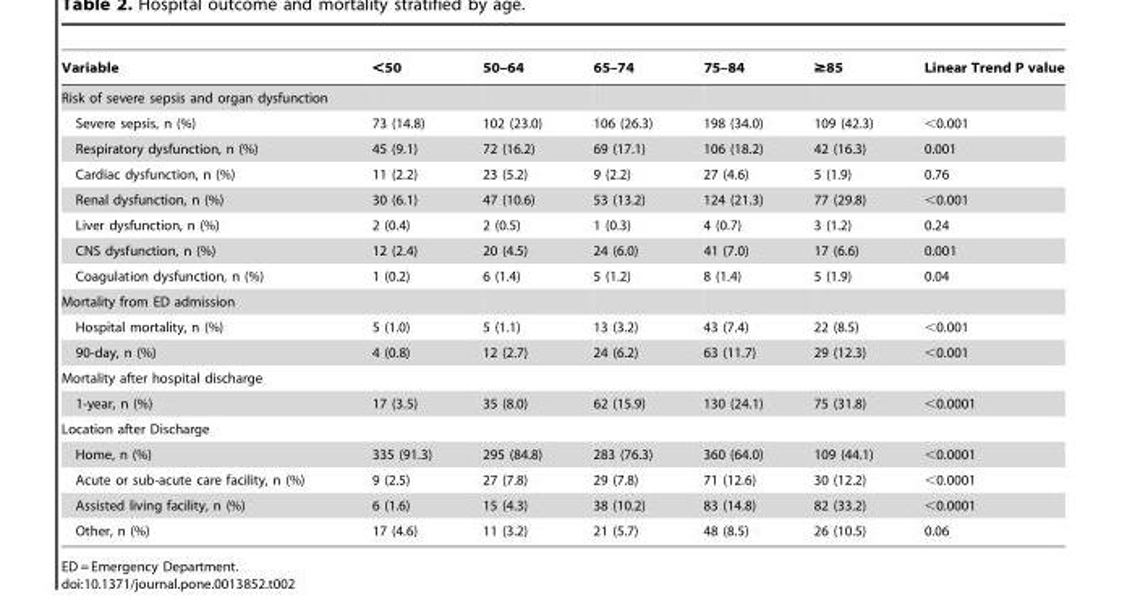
<table><thead><tr><td>Variable</td><td>&lt;50</td><td>50–64</td><td>65–74</td><td>75–84</td><td>≥85</td><td>Linear Trend P value</td></tr></thead><tbody><tr><td colspan="7">Risk of severe sepsis and organ dysfunction</td></tr><tr><td>Severe sepsis, n (%)</td><td>73 (14.8)</td><td>102 (23.0)</td><td>106 (26.3)</td><td>198 (34.0)</td><td>109 (42.3)</td><td>&lt;0.001</td></tr><tr><td>Respiratory dysfunction, n (%)</td><td>45 (9.1)</td><td>72 (16.2)</td><td>69 (17.1)</td><td>106 (18.2)</td><td>42 (16.3)</td><td>0.001</td></tr><tr><td>Cardiac dysfunction, n (%)</td><td>11 (2.2)</td><td>23 (5.2)</td><td>9 (2.2)</td><td>27 (4.6)</td><td>5 (1.9)</td><td>0.76</td></tr><tr><td>Renal dysfunction, n (%)</td><td>30 (6.1)</td><td>47 (10.6)</td><td>53 (13.2)</td><td>124 (21.3)</td><td>77 (29.8)</td><td>&lt;0.001</td></tr><tr><td>Liver dysfunction, n (%)</td><td>2 (0.4)</td><td>2 (0.5)</td><td>1 (0.3)</td><td>4 (0.7)</td><td>3 (1.2)</td><td>0.24</td></tr><tr><td>CNS dysfunction, n (%)</td><td>12 (2.4)</td><td>20 (4.5)</td><td>24 (6.0)</td><td>41 (7.0)</td><td>17 (6.6)</td><td>0.001</td></tr><tr><td>Coagulation dysfunction, n (%)</td><td>1 (0.2)</td><td>6 (1.4)</td><td>5 (1.2)</td><td>8 (1.4)</td><td>5 (1.9)</td><td>0.04</td></tr><tr><td colspan="7">Mortality from ED admission</td></tr><tr><td>Hospital mortality, n (%)</td><td>5 (1.0)</td><td>5 (1.1)</td><td>13 (3.2)</td><td>43 (7.4)</td><td>22 (8.5)</td><td>&lt;0.001</td></tr><tr><td>90-day, n (%)</td><td>4 (0.8)</td><td>12 (2.7)</td><td>24 (6.2)</td><td>63 (11.7)</td><td>29 (12.3)</td><td>&lt;0.001</td></tr><tr><td colspan="7">Mortality after hospital discharge</td></tr><tr><td>1-year, n (%)</td><td>17 (3.5)</td><td>35 (8.0)</td><td>62 (15.9)</td><td>130 (24.1)</td><td>75 (31.8)</td><td>&lt;0.0001</td></tr><tr><td colspan="7">Location after Discharge</td></tr><tr><td>Home, n (%)</td><td>335 (91.3)</td><td>295 (84.8)</td><td>283 (76.3)</td><td>360 (64.0)</td><td>109 (44.1)</td><td>&lt;0.0001</td></tr><tr><td>Acute or sub-acute care facility, n (%)</td><td>9 (2.5)</td><td>27 (7.8)</td><td>29 (7.8)</td><td>71 (12.6)</td><td>30 (12.2)</td><td>&lt;0.0001</td></tr><tr><td>Assisted living facility, n (%)</td><td>6 (1.6)</td><td>15 (4.3)</td><td>38 (10.2)</td><td>83 (14.8)</td><td>82 (33.2)</td><td>&lt;0.0001</td></tr><tr><td>Other, n (%)</td><td>17 (4.6)</td><td>11 (3.2)</td><td>21 (5.7)</td><td>48 (8.5)</td><td>26 (10.5)</td><td>0.06</td></tr></tbody></table>